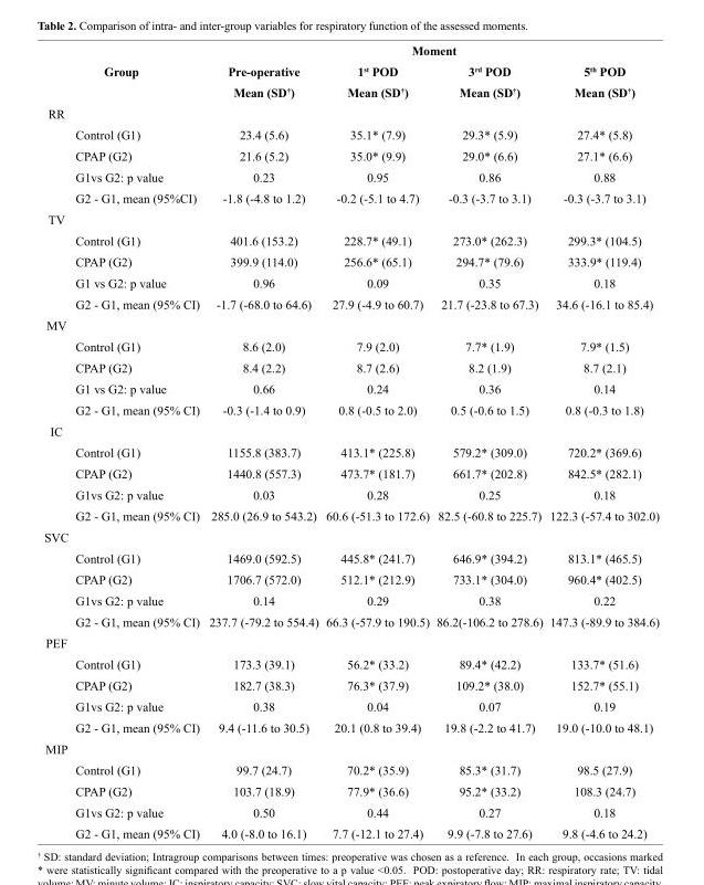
<table><thead><tr><td rowspan="3"></td><td rowspan="3">Group</td><td colspan="4">Moment</td></tr><tr><td rowspan="2">Pre-operative Mean (SD†)</td><td rowspan="2">1<sup>st</sup> POD Mean (SD†)</td><td rowspan="2">3<sup>rd</sup> POD Mean (SD†)</td><td rowspan="2">5<sup>th</sup> POD Mean (SD†)</td></tr><tr></tr></thead><tbody><tr><td colspan="6">RR</td></tr><tr><td></td><td>Control (G1)</td><td>23.4 (5.6)</td><td>35.1* (7.9)</td><td>29.3* (5.9)</td><td>27.4* (5.8)</td></tr><tr><td></td><td>CPAP (G2)</td><td>21.6 (5.2)</td><td>35.0* (9.9)</td><td>29.0* (6.6)</td><td>27.1* (6.6)</td></tr><tr><td></td><td>G1vs G2: p value</td><td>0.23</td><td>0.95</td><td>0.86</td><td>0.88</td></tr><tr><td></td><td>G2 - G1, mean (95%CI)</td><td>-1.8 (-4.8 to 1.2)</td><td>-0.2 (-5.1 to 4.7)</td><td>-0.3 (-3.7 to 3.1)</td><td>-0.3 (-3.7 to 3.1)</td></tr><tr><td colspan="6">TV</td></tr><tr><td></td><td>Control (G1)</td><td>401.6 (153.2)</td><td>228.7* (49.1)</td><td>273.0* (262.3)</td><td>299.3* (104.5)</td></tr><tr><td></td><td>CPAP (G2)</td><td>399.9 (114.0)</td><td>256.6* (65.1)</td><td>294.7* (79.6)</td><td>333.9* (119.4)</td></tr><tr><td></td><td>G1 vs G2: p value</td><td>0.96</td><td>0.09</td><td>0.35</td><td>0.18</td></tr><tr><td></td><td>G2 - G1, mean (95% CI)</td><td>-1.7 (-68.0 to 64.6)</td><td>27.9 (-4.9 to 60.7)</td><td>21.7 (-23.8 to 67.3)</td><td>34.6 (-16.1 to 85.4)</td></tr><tr><td colspan="6">MV</td></tr><tr><td></td><td>Control (G1)</td><td>8.6 (2.0)</td><td>7.9 (2.0)</td><td>7.7* (1.9)</td><td>7.9* (1.5)</td></tr><tr><td></td><td>CPAP (G2)</td><td>8.4 (2.2)</td><td>8.7 (2.6)</td><td>8.2 (1.9)</td><td>8.7 (2.1)</td></tr><tr><td></td><td>G1 vs G2: p value</td><td>0.66</td><td>0.24</td><td>0.36</td><td>0.14</td></tr><tr><td></td><td>G2 - G1, mean (95% CI)</td><td>-0.3 (-1.4 to 0.9)</td><td>0.8 (-0.5 to 2.0)</td><td>0.5 (-0.6 to 1.5)</td><td>0.8 (-0.3 to 1.8)</td></tr><tr><td colspan="6">IC</td></tr><tr><td></td><td>Control (G1)</td><td>1155.8 (383.7)</td><td>413.1* (225.8)</td><td>579.2* (309.0)</td><td>720.2* (369.6)</td></tr><tr><td></td><td>CPAP (G2)</td><td>1440.8 (557.3)</td><td>473.7* (181.7)</td><td>661.7* (202.8)</td><td>842.5* (282.1)</td></tr><tr><td></td><td>G1vs G2: p value</td><td>0.03</td><td>0.28</td><td>0.25</td><td>0.18</td></tr><tr><td></td><td>G2 - G1, mean (95% CI)</td><td>285.0 (26.9 to 543.2)</td><td>60.6 (-51.3 to 172.6)</td><td>82.5 (-60.8 to 225.7)</td><td>122.3 (-57.4 to 302.0)</td></tr><tr><td colspan="6">SVC</td></tr><tr><td></td><td>Control (G1)</td><td>1469.0 (592.5)</td><td>445.8* (241.7)</td><td>646.9* (394.2)</td><td>813.1* (465.5)</td></tr><tr><td></td><td>CPAP (G2)</td><td>1706.7 (572.0)</td><td>512.1* (212.9)</td><td>733.1* (304.0)</td><td>960.4* (402.5)</td></tr><tr><td></td><td>G1vs G2: p value</td><td>0.14</td><td>0.29</td><td>0.38</td><td>0.22</td></tr><tr><td></td><td>G2 - G1, mean (95% CI)</td><td>237.7 (-79.2 to 554.4)</td><td>66.3 (-57.9 to 190.5)</td><td>86.2(-106.2 to 278.6)</td><td>147.3 (-89.9 to 384.6)</td></tr><tr><td colspan="6">PEF</td></tr><tr><td></td><td>Control (G1)</td><td>173.3 (39.1)</td><td>56.2* (33.2)</td><td>89.4* (42.2)</td><td>133.7* (51.6)</td></tr><tr><td></td><td>CPAP (G2)</td><td>182.7 (38.3)</td><td>76.3* (37.9)</td><td>109.2* (38.0)</td><td>152.7* (55.1)</td></tr><tr><td></td><td>G1vs G2: p value</td><td>0.38</td><td>0.04</td><td>0.07</td><td>0.19</td></tr><tr><td></td><td>G2 - G1, mean (95% CI)</td><td>9.4 (-11.6 to 30.5)</td><td>20.1 (0.8 to 39.4)</td><td>19.8 (-2.2 to 41.7)</td><td>19.0 (-10.0 to 48.1)</td></tr><tr><td colspan="6">MIP</td></tr><tr><td></td><td>Control (G1)</td><td>99.7 (24.7)</td><td>70.2* (35.9)</td><td>85.3* (31.7)</td><td>98.5 (27.9)</td></tr><tr><td></td><td>CPAP (G2)</td><td>103.7 (18.9)</td><td>77.9* (36.6)</td><td>95.2* (33.2)</td><td>108.3 (24.7)</td></tr><tr><td></td><td>G1vs G2: p value</td><td>0.50</td><td>0.44</td><td>0.27</td><td>0.18</td></tr><tr><td></td><td>G2 - G1, mean (95% CI)</td><td>4.0 (-8.0 to 16.1)</td><td>7.7 (-12.1 to 27.4)</td><td>9.9 (-7.8 to 27.6)</td><td>9.8 (-4.6 to 24.2)</td></tr></tbody></table>